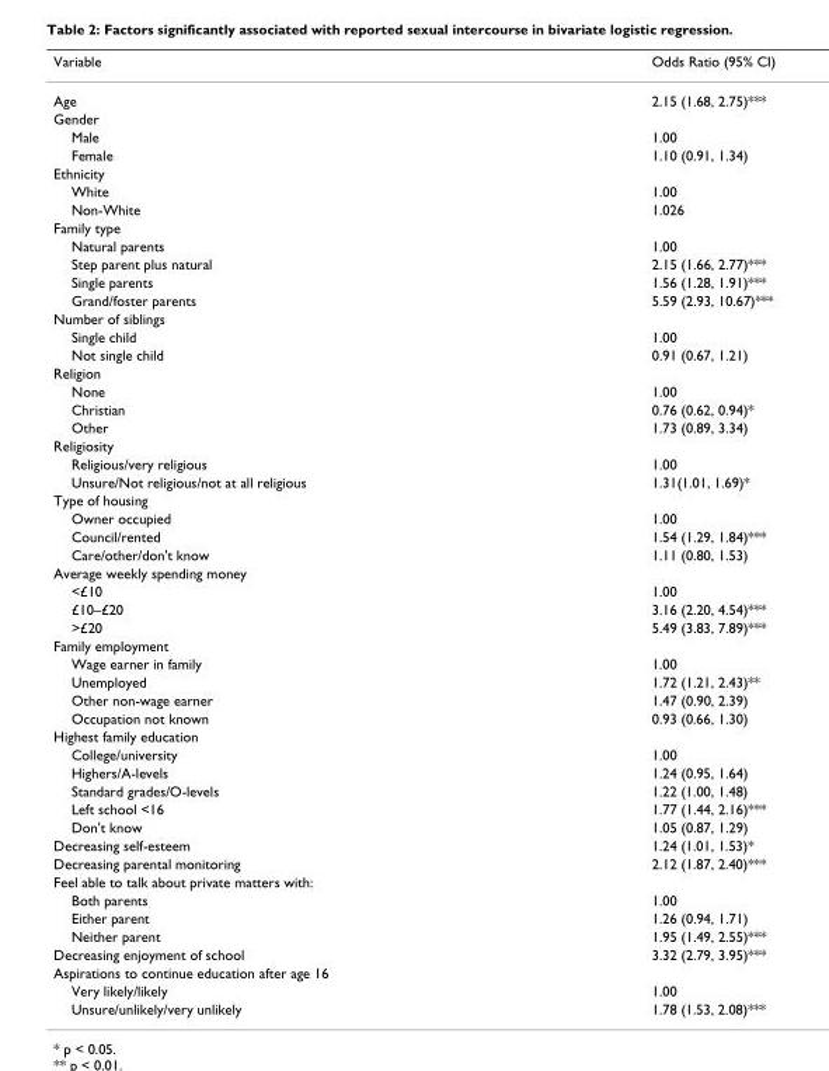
<table><thead><tr><td>Variable</td><td>Odds Ratio (95% CI)</td></tr></thead><tbody><tr><td>Age</td><td>2.15 (1.68, 2.75)***</td></tr><tr><td colspan="2">Gender</td></tr><tr><td>Male</td><td>1.00</td></tr><tr><td>Female</td><td>1.10 (0.91, 1.34)</td></tr><tr><td colspan="2">Ethnicity</td></tr><tr><td>White</td><td>1.00</td></tr><tr><td>Non-White</td><td>1.026</td></tr><tr><td colspan="2">Family type</td></tr><tr><td>Natural parents</td><td>1.00</td></tr><tr><td>Step parent plus natural</td><td>2.15 (1.66, 2.77)***</td></tr><tr><td>Single parents</td><td>1.56 (1.28, 1.91)***</td></tr><tr><td>Grand/foster parents</td><td>5.59 (2.93, 10.67)***</td></tr><tr><td colspan="2">Number of siblings</td></tr><tr><td>Single child</td><td>1.00</td></tr><tr><td>Not single child</td><td>0.91 (0.67, 1.21)</td></tr><tr><td colspan="2">Religion</td></tr><tr><td>None</td><td>1.00</td></tr><tr><td>Christian</td><td>0.76 (0.62, 0.94)*</td></tr><tr><td>Other</td><td>1.73 (0.89, 3.34)</td></tr><tr><td colspan="2">Religiosity</td></tr><tr><td>Religious/very religious</td><td>1.00</td></tr><tr><td>Unsure/Not religious/not at all religious</td><td>1.31(1.01, 1.69)*</td></tr><tr><td colspan="2">Type of housing</td></tr><tr><td>Owner occupied</td><td>1.00</td></tr><tr><td>Council/rented</td><td>1.54 (1.29, 1.84)***</td></tr><tr><td>Care/other/don&#x27;t know</td><td>1.11 (0.80, 1.53)</td></tr><tr><td colspan="2">Average weekly spending money</td></tr><tr><td>&lt;£10</td><td>1.00</td></tr><tr><td>£10–£20</td><td>3.16 (2.20, 4.54)***</td></tr><tr><td>&gt;£20</td><td>5.49 (3.83, 7.89)***</td></tr><tr><td colspan="2">Family employment</td></tr><tr><td>Wage earner in family</td><td>1.00</td></tr><tr><td>Unemployed</td><td>1.72 (1.21, 2.43)**</td></tr><tr><td>Other non-wage earner</td><td>1.47 (0.90, 2.39)</td></tr><tr><td>Occupation not known</td><td>0.93 (0.66, 1.30)</td></tr><tr><td colspan="2">Highest family education</td></tr><tr><td>College/university</td><td>1.00</td></tr><tr><td>Highers/A-levels</td><td>1.24 (0.95, 1.64)</td></tr><tr><td>Standard grades/O-levels</td><td>1.22 (1.00, 1.48)</td></tr><tr><td>Left school &lt;16</td><td>1.77 (1.44, 2.16)***</td></tr><tr><td>Don&#x27;t know</td><td>1.05 (0.87, 1.29)</td></tr><tr><td>Decreasing self-esteem</td><td>1.24 (1.01, 1.53)*</td></tr><tr><td>Decreasing parental monitoring</td><td>2.12 (1.87, 2.40)***</td></tr><tr><td colspan="2">Feel able to talk about private matters with:</td></tr><tr><td>Both parents</td><td>1.00</td></tr><tr><td>Either parent</td><td>1.26 (0.94, 1.71)</td></tr><tr><td>Neither parent</td><td>1.95 (1.49, 2.55)***</td></tr><tr><td>Decreasing enjoyment of school</td><td>3.32 (2.79, 3.95)***</td></tr><tr><td colspan="2">Aspirations to continue education after age 16</td></tr><tr><td>Very likely/likely</td><td>1.00</td></tr><tr><td>Unsure/unlikely/very unlikely</td><td>1.78 (1.53, 2.08)***</td></tr></tbody></table>